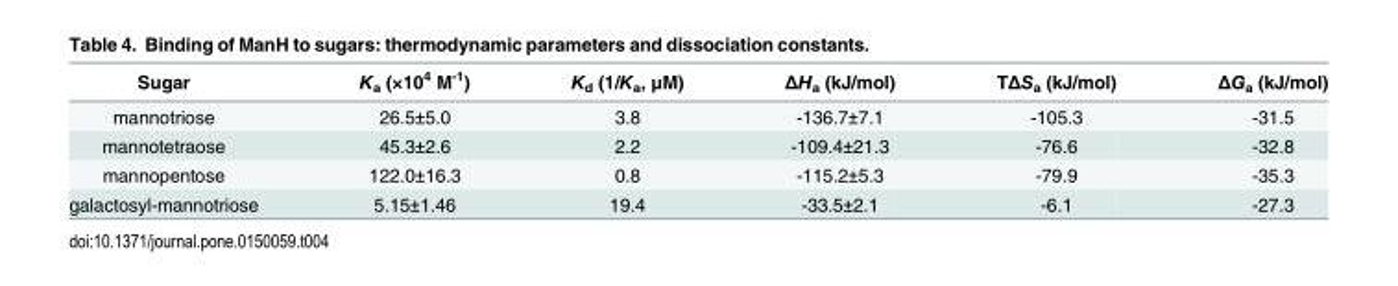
<table><thead><tr><td>Sugar</td><td>K<sub>a</sub> (×10<sup>4</sup> M<sup>-1</sup>)</td><td>K<sub>d</sub> (1/K<sub>a</sub>, μM)</td><td>ΔH<sub>a</sub> (kJ/mol)</td><td>TΔS<sub>a</sub> (kJ/mol)</td><td>ΔG<sub>a</sub> (kJ/mol)</td></tr></thead><tbody><tr><td>mannotriose</td><td>26.5±5.0</td><td>3.8</td><td>-136.7±7.1</td><td>-105.3</td><td>-31.5</td></tr><tr><td>mannotetraose</td><td>45.3±2.6</td><td>2.2</td><td>-109.4±21.3</td><td>-76.6</td><td>-32.8</td></tr><tr><td>mannopentose</td><td>122.0±16.3</td><td>0.8</td><td>-115.2±5.3</td><td>-79.9</td><td>-35.3</td></tr><tr><td>galactosyl-mannotriose</td><td>5.15±1.46</td><td>19.4</td><td>-33.5±2.1</td><td>-6.1</td><td>-27.3</td></tr></tbody></table>